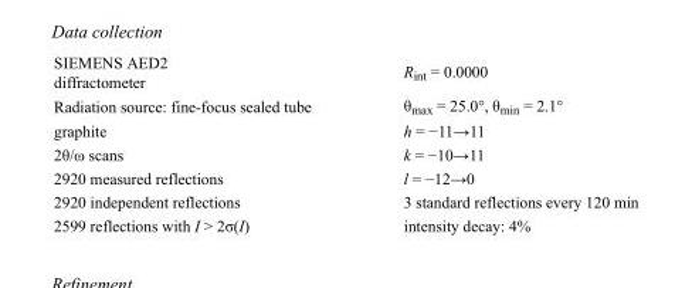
<table><tbody><tr><td>SIEMENS AED2 diffractometer</td><td>R<sub>int</sub> = 0.0000</td></tr><tr><td>Radiation source: fine-focus sealed tube</td><td>θ<sub>max</sub> = 25.0°, θ<sub>min</sub> = 2.1°</td></tr><tr><td>graphite</td><td>h = −11→11</td></tr><tr><td>2θ/ω scans</td><td>k = −10→11</td></tr><tr><td>2920 measured reflections</td><td>l = −12→0</td></tr><tr><td>2920 independent reflections</td><td>3 standard reflections every 120 min</td></tr><tr><td>2599 reflections with I &gt; 2σ(I)</td><td>intensity decay: 4%</td></tr></tbody></table>